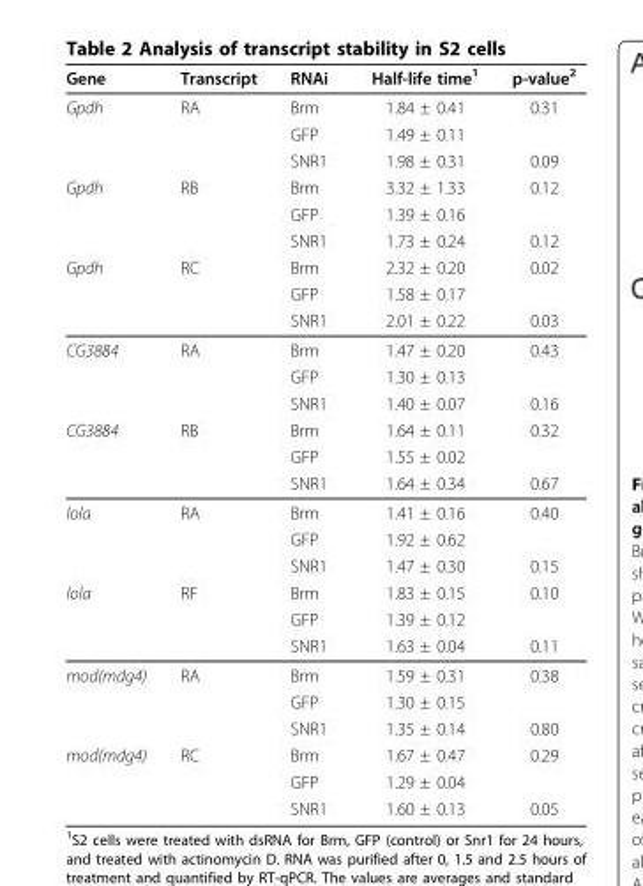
<table><thead><tr><td>Gene</td><td>Transcript</td><td>RNAi</td><td>Half-life time<sup>1</sup></td><td>p-value<sup>2</sup></td></tr></thead><tbody><tr><td rowspan="3">Gpdh</td><td>RA</td><td>Brm</td><td>1.84 ± 0.41</td><td>0.31</td></tr><tr><td></td><td>GFP</td><td>1.49 ± 0.11</td><td></td></tr><tr><td></td><td>SNR1</td><td>1.98 ± 0.31</td><td>0.09</td></tr><tr><td rowspan="3">Gpdh</td><td>RB</td><td>Brm</td><td>3.32 ± 1.33</td><td>0.12</td></tr><tr><td></td><td>GFP</td><td>1.39 ± 0.16</td><td></td></tr><tr><td></td><td>SNR1</td><td>1.73 ± 0.24</td><td>0.12</td></tr><tr><td rowspan="3">Gpdh</td><td>RC</td><td>Brm</td><td>2.32 ± 0.20</td><td>0.02</td></tr><tr><td></td><td>GFP</td><td>1.58 ± 0.17</td><td></td></tr><tr><td></td><td>SNR1</td><td>2.01 ± 0.22</td><td>0.03</td></tr><tr><td rowspan="3">CG3884</td><td>RA</td><td>Brm</td><td>1.47 ± 0.20</td><td>0.43</td></tr><tr><td></td><td>GFP</td><td>1.30 ± 0.13</td><td></td></tr><tr><td></td><td>SNR1</td><td>1.40 ± 0.07</td><td>0.16</td></tr><tr><td rowspan="3">CG3884</td><td>RB</td><td>Brm</td><td>1.64 ± 0.11</td><td>0.32</td></tr><tr><td></td><td>GFP</td><td>1.55 ± 0.02</td><td></td></tr><tr><td></td><td>SNR1</td><td>1.64 ± 0.34</td><td>0.67</td></tr><tr><td rowspan="3">lola</td><td>RA</td><td>Brm</td><td>1.41 ± 0.16</td><td>0.40</td></tr><tr><td></td><td>GFP</td><td>1.92 ± 0.62</td><td></td></tr><tr><td></td><td>SNR1</td><td>1.47 ± 0.30</td><td>0.15</td></tr><tr><td rowspan="3">lola</td><td>RF</td><td>Brm</td><td>1.83 ± 0.15</td><td>0.10</td></tr><tr><td></td><td>GFP</td><td>1.39 ± 0.12</td><td></td></tr><tr><td></td><td>SNR1</td><td>1.63 ± 0.04</td><td>0.11</td></tr><tr><td rowspan="3">mod(mdg4)</td><td>RA</td><td>Brm</td><td>1.59 ± 0.31</td><td>0.38</td></tr><tr><td></td><td>GFP</td><td>1.30 ± 0.15</td><td></td></tr><tr><td></td><td>SNR1</td><td>1.35 ± 0.14</td><td>0.80</td></tr><tr><td rowspan="3">mod(mdg4)</td><td>RC</td><td>Brm</td><td>1.67 ± 0.47</td><td>0.29</td></tr><tr><td></td><td>GFP</td><td>1.29 ± 0.04</td><td></td></tr><tr><td></td><td>SNR1</td><td>1.60 ± 0.13</td><td>0.05</td></tr></tbody></table>